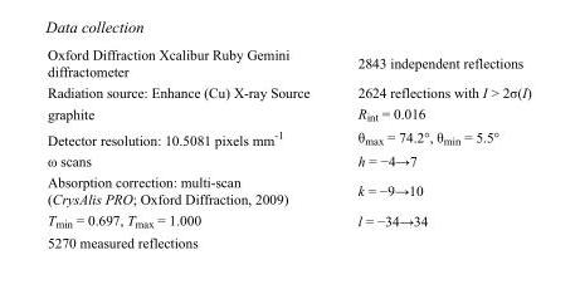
<table><tbody><tr><td>Oxford Diffraction Xcalibur Ruby Gemini diffractometer</td><td>2843 independent reflections</td></tr><tr><td>Radiation source: Enhance (Cu) X-ray Source</td><td>2624 reflections with I &gt; 2σ(I)</td></tr><tr><td>graphite</td><td>R<sub>int</sub> = 0.016</td></tr><tr><td>Detector resolution: 10.5081 pixels mm<sup>-1</sup></td><td>θ<sub>max</sub> = 74.2°, θ<sub>min</sub> = 5.5°</td></tr><tr><td>ω scans</td><td>h = −4→7</td></tr><tr><td>Absorption correction: multi-scan (CrysAlis PRO; Oxford Diffraction, 2009)</td><td>k = −9→10</td></tr><tr><td>T<sub>min</sub> = 0.697, T<sub>max</sub> = 1.000</td><td>l = −34→34</td></tr><tr><td>5270 measured reflections</td><td></td></tr></tbody></table>